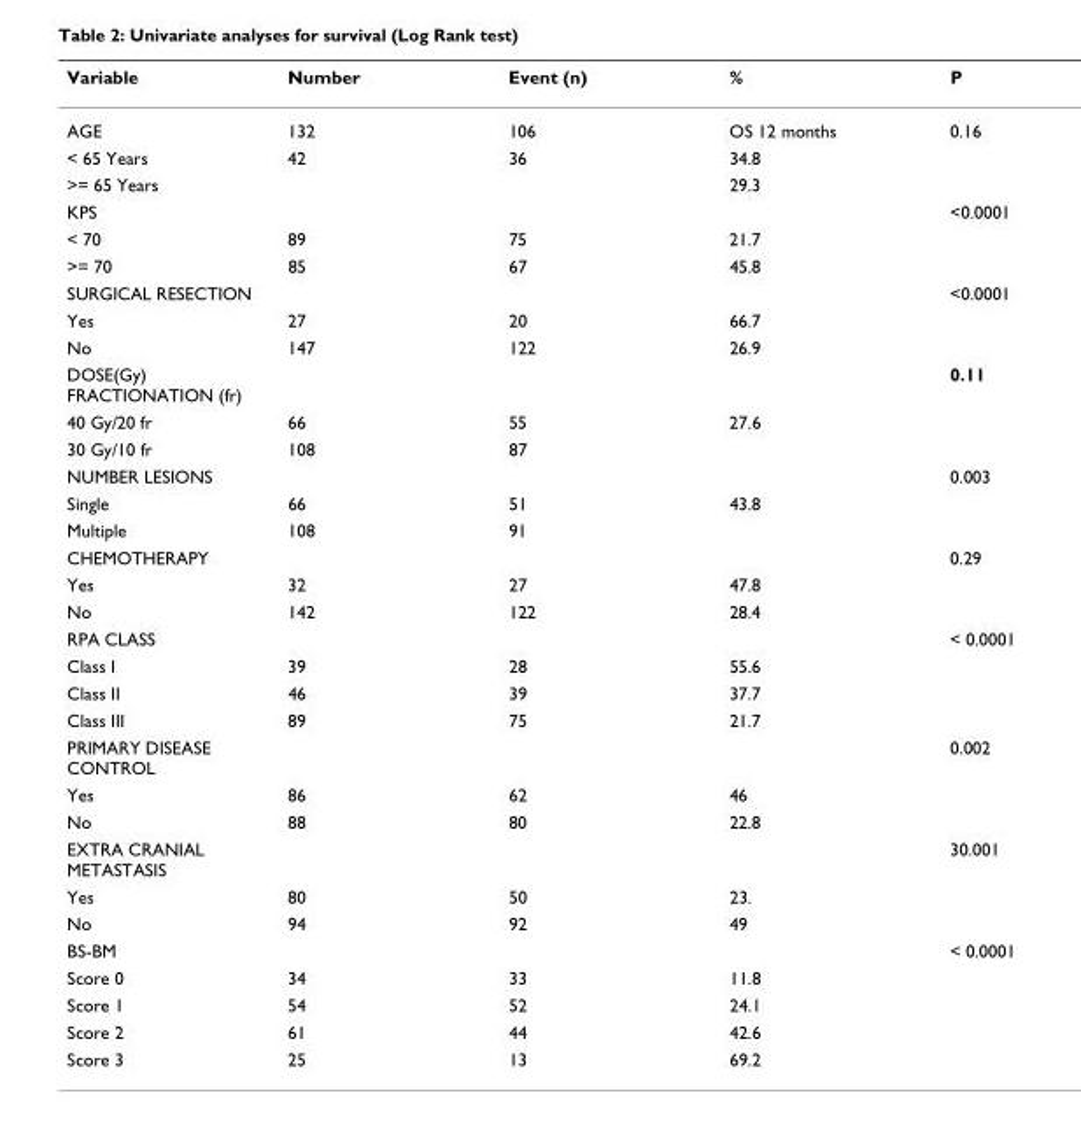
<table><thead><tr><td>Variable</td><td>Number</td><td>Event (n)</td><td>%</td><td>P</td></tr></thead><tbody><tr><td>AGE</td><td>132</td><td>106</td><td>OS 12 months</td><td>0.16</td></tr><tr><td>&lt; 65 Years</td><td>42</td><td>36</td><td>34.8</td><td></td></tr><tr><td>&gt;= 65 Years</td><td></td><td></td><td>29.3</td><td></td></tr><tr><td>KPS</td><td></td><td></td><td></td><td>&lt;0.0001</td></tr><tr><td>&lt; 70</td><td>89</td><td>75</td><td>21.7</td><td></td></tr><tr><td>&gt;= 70</td><td>85</td><td>67</td><td>45.8</td><td></td></tr><tr><td>SURGICAL RESECTION</td><td></td><td></td><td></td><td>&lt;0.0001</td></tr><tr><td>Yes</td><td>27</td><td>20</td><td>66.7</td><td></td></tr><tr><td>No</td><td>147</td><td>122</td><td>26.9</td><td></td></tr><tr><td>DOSE(Gy) FRACTIONATION (fr)</td><td></td><td></td><td></td><td>0.11</td></tr><tr><td>40 Gy/20 fr</td><td>66</td><td>55</td><td>27.6</td><td></td></tr><tr><td>30 Gy/10 fr</td><td>108</td><td>87</td><td></td><td></td></tr><tr><td>NUMBER LESIONS</td><td></td><td></td><td></td><td>0.003</td></tr><tr><td>Single</td><td>66</td><td>51</td><td>43.8</td><td></td></tr><tr><td>Multiple</td><td>108</td><td>91</td><td></td><td></td></tr><tr><td>CHEMOTHERAPY</td><td></td><td></td><td></td><td>0.29</td></tr><tr><td>Yes</td><td>32</td><td>27</td><td>47.8</td><td></td></tr><tr><td>No</td><td>142</td><td>122</td><td>28.4</td><td></td></tr><tr><td>RPA CLASS</td><td></td><td></td><td></td><td>&lt; 0.0001</td></tr><tr><td>Class I</td><td>39</td><td>28</td><td>55.6</td><td></td></tr><tr><td>Class II</td><td>46</td><td>39</td><td>37.7</td><td></td></tr><tr><td>Class III</td><td>89</td><td>75</td><td>21.7</td><td></td></tr><tr><td>PRIMARY DISEASE CONTROL</td><td></td><td></td><td></td><td>0.002</td></tr><tr><td>Yes</td><td>86</td><td>62</td><td>46</td><td></td></tr><tr><td>No</td><td>88</td><td>80</td><td>22.8</td><td></td></tr><tr><td>EXTRA CRANIAL METASTASIS</td><td></td><td></td><td></td><td>30.001</td></tr><tr><td>Yes</td><td>80</td><td>50</td><td>23.</td><td></td></tr><tr><td>No</td><td>94</td><td>92</td><td>49</td><td></td></tr><tr><td>BS-BM</td><td></td><td></td><td></td><td>&lt; 0.0001</td></tr><tr><td>Score 0</td><td>34</td><td>33</td><td>11.8</td><td></td></tr><tr><td>Score 1</td><td>54</td><td>52</td><td>24.1</td><td></td></tr><tr><td>Score 2</td><td>61</td><td>44</td><td>42.6</td><td></td></tr><tr><td>Score 3</td><td>25</td><td>13</td><td>69.2</td><td></td></tr></tbody></table>